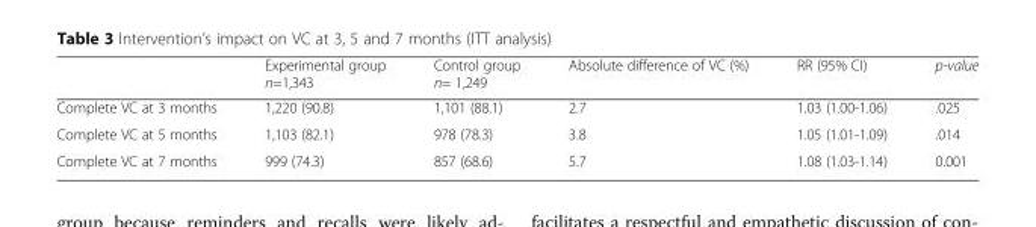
<table><thead><tr><td></td><td>Experimental group n=1,343</td><td>Control group n= 1,249</td><td>Absolute difference of VC (%)</td><td>RR (95% CI)</td><td>p-value</td></tr></thead><tbody><tr><td>Complete VC at 3 months</td><td>1,220 (90.8)</td><td>1,101 (88.1)</td><td>2.7</td><td>1.03 (1.00-1.06)</td><td>.025</td></tr><tr><td>Complete VC at 5 months</td><td>1,103 (82.1)</td><td>978 (78.3)</td><td>3.8</td><td>1.05 (1.01-1.09)</td><td>.014</td></tr><tr><td>Complete VC at 7 months</td><td>999 (74.3)</td><td>857 (68.6)</td><td>5.7</td><td>1.08 (1.03-1.14)</td><td>0.001</td></tr></tbody></table>